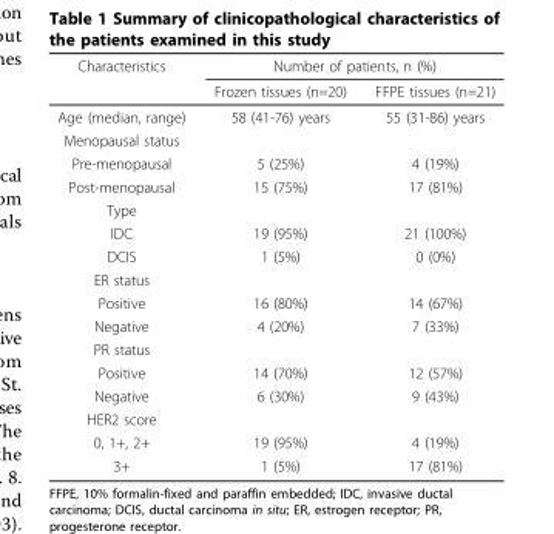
<table><thead><tr><td rowspan="2">Characteristics</td><td colspan="2">Number of patients, n (%)</td></tr><tr><td>Frozen tissues (n=20)</td><td>FFPE tissues (n=21)</td></tr></thead><tbody><tr><td>Age (median, range)</td><td>58 (41-76) years</td><td>55 (31-86) years</td></tr><tr><td colspan="3">Menopausal status</td></tr><tr><td>Pre-menopausal</td><td>5 (25%)</td><td>4 (19%)</td></tr><tr><td>Post-menopausal</td><td>15 (75%)</td><td>17 (81%)</td></tr><tr><td colspan="3">Type</td></tr><tr><td>IDC</td><td>19 (95%)</td><td>21 (100%)</td></tr><tr><td>DCIS</td><td>1 (5%)</td><td>0 (0%)</td></tr><tr><td colspan="3">ER status</td></tr><tr><td>Positive</td><td>16 (80%)</td><td>14 (67%)</td></tr><tr><td>Negative</td><td>4 (20%)</td><td>7 (33%)</td></tr><tr><td colspan="3">PR status</td></tr><tr><td>Positive</td><td>14 (70%)</td><td>12 (57%)</td></tr><tr><td>Negative</td><td>6 (30%)</td><td>9 (43%)</td></tr><tr><td colspan="3">HER2 score</td></tr><tr><td>0, 1+, 2+</td><td>19 (95%)</td><td>4 (19%)</td></tr><tr><td>3+</td><td>1 (5%)</td><td>17 (81%)</td></tr></tbody></table>